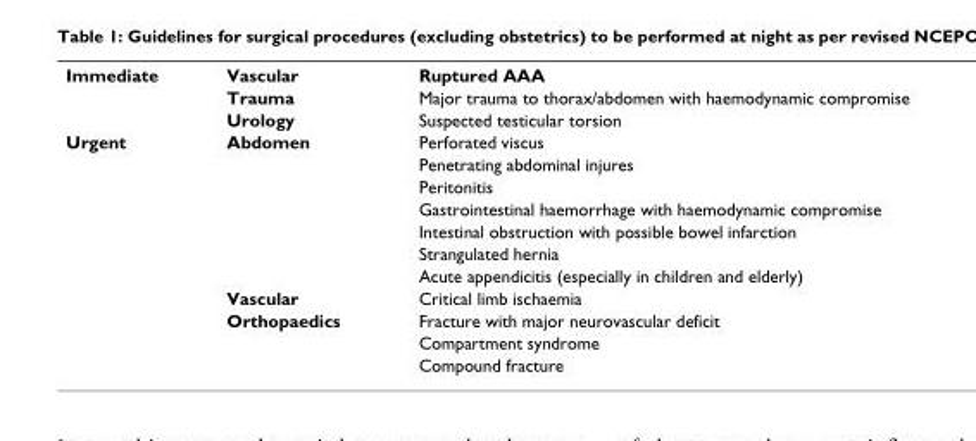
<table><tbody><tr><td rowspan="3">Immediate</td><td>Vascular</td><td>Ruptured AAA</td></tr><tr><td>Trauma</td><td>Major trauma to thorax/abdomen with haemodynamic compromise</td></tr><tr><td>Urology</td><td>Suspected testicular torsion</td></tr><tr><td rowspan="11">Urgent</td><td>Abdomen</td><td>Perforated viscus</td></tr><tr><td></td><td>Penetrating abdominal injures</td></tr><tr><td></td><td>Peritonitis</td></tr><tr><td></td><td>Gastrointestinal haemorrhage with haemodynamic compromise</td></tr><tr><td></td><td>Intestinal obstruction with possible bowel infarction</td></tr><tr><td></td><td>Strangulated hernia</td></tr><tr><td></td><td>Acute appendicitis (especially in children and elderly)</td></tr><tr><td>Vascular</td><td>Critical limb ischaemia</td></tr><tr><td>Orthopaedics</td><td>Fracture with major neurovascular deficit</td></tr><tr><td></td><td>Compartment syndrome</td></tr><tr><td></td><td>Compound fracture</td></tr></tbody></table>